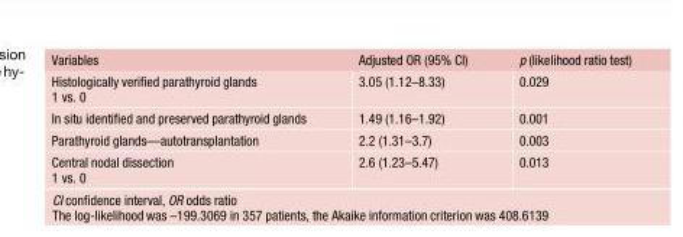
<table><thead><tr><td>Variables</td><td>Adjusted OR (95% CI)</td><td>p (likelihood ratio test)</td></tr></thead><tbody><tr><td>Histologically verified parathyroid glands 1 vs. 0</td><td>3.05 (1.12–8.33)</td><td>0.029</td></tr><tr><td>In situ identified and preserved parathyroid glands</td><td>1.49 (1.16–1.92)</td><td>0.001</td></tr><tr><td>Parathyroid glands—autotransplantation</td><td>2.2 (1.31–3.7)</td><td>0.003</td></tr><tr><td>Central nodal dissection 1 vs. 0</td><td>2.6 (1.23–5.47)</td><td>0.013</td></tr></tbody></table>